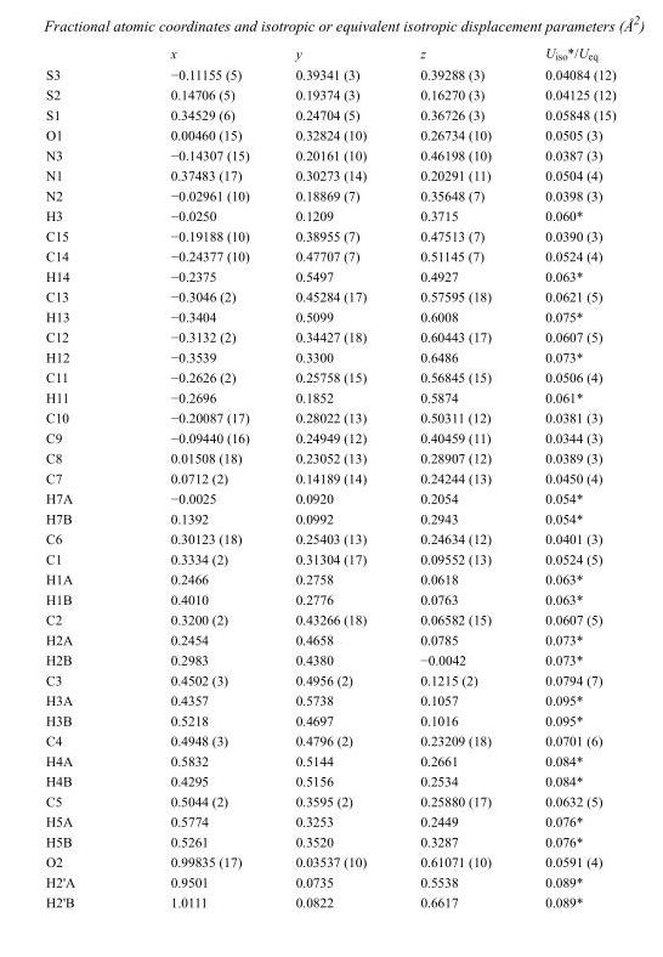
<table><thead><tr><td></td><td>x</td><td>y</td><td>z</td><td>U<sub>iso</sub>*/U<sub>eq</sub></td></tr></thead><tbody><tr><td>S3</td><td>−0.11155 (5)</td><td>0.39341 (3)</td><td>0.39288 (3)</td><td>0.04084 (12)</td></tr><tr><td>S2</td><td>0.14706 (5)</td><td>0.19374 (3)</td><td>0.16270 (3)</td><td>0.04125 (12)</td></tr><tr><td>S1</td><td>0.34529 (6)</td><td>0.24704 (5)</td><td>0.36726 (3)</td><td>0.05848 (15)</td></tr><tr><td>O1</td><td>0.00460 (15)</td><td>0.32824 (10)</td><td>0.26734 (10)</td><td>0.0505 (3)</td></tr><tr><td>N3</td><td>−0.14307 (15)</td><td>0.20161 (10)</td><td>0.46198 (10)</td><td>0.0387 (3)</td></tr><tr><td>N1</td><td>0.37483 (17)</td><td>0.30273 (14)</td><td>0.20291 (11)</td><td>0.0504 (4)</td></tr><tr><td>N2</td><td>−0.02961 (10)</td><td>0.18869 (7)</td><td>0.35648 (7)</td><td>0.0398 (3)</td></tr><tr><td>H3</td><td>−0.0250</td><td>0.1209</td><td>0.3715</td><td>0.060*</td></tr><tr><td>C15</td><td>−0.19188 (10)</td><td>0.38955 (7)</td><td>0.47513 (7)</td><td>0.0390 (3)</td></tr><tr><td>C14</td><td>−0.24377 (10)</td><td>0.47707 (7)</td><td>0.51145 (7)</td><td>0.0524 (4)</td></tr><tr><td>H14</td><td>−0.2375</td><td>0.5497</td><td>0.4927</td><td>0.063*</td></tr><tr><td>C13</td><td>−0.3046 (2)</td><td>0.45284 (17)</td><td>0.57595 (18)</td><td>0.0621 (5)</td></tr><tr><td>H13</td><td>−0.3404</td><td>0.5099</td><td>0.6008</td><td>0.075*</td></tr><tr><td>C12</td><td>−0.3132 (2)</td><td>0.34427 (18)</td><td>0.60443 (17)</td><td>0.0607 (5)</td></tr><tr><td>H12</td><td>−0.3539</td><td>0.3300</td><td>0.6486</td><td>0.073*</td></tr><tr><td>C11</td><td>−0.2626 (2)</td><td>0.25758 (15)</td><td>0.56845 (15)</td><td>0.0506 (4)</td></tr><tr><td>H11</td><td>−0.2696</td><td>0.1852</td><td>0.5874</td><td>0.061*</td></tr><tr><td>C10</td><td>−0.20087 (17)</td><td>0.28022 (13)</td><td>0.50311 (12)</td><td>0.0381 (3)</td></tr><tr><td>C9</td><td>−0.09440 (16)</td><td>0.24949 (12)</td><td>0.40459 (11)</td><td>0.0344 (3)</td></tr><tr><td>C8</td><td>0.01508 (18)</td><td>0.23052 (13)</td><td>0.28907 (12)</td><td>0.0389 (3)</td></tr><tr><td>C7</td><td>0.0712 (2)</td><td>0.14189 (14)</td><td>0.24244 (13)</td><td>0.0450 (4)</td></tr><tr><td>H7A</td><td>−0.0025</td><td>0.0920</td><td>0.2054</td><td>0.054*</td></tr><tr><td>H7B</td><td>0.1392</td><td>0.0992</td><td>0.2943</td><td>0.054*</td></tr><tr><td>C6</td><td>0.30123 (18)</td><td>0.25403 (13)</td><td>0.24634 (12)</td><td>0.0401 (3)</td></tr><tr><td>C1</td><td>0.3334 (2)</td><td>0.31304 (17)</td><td>0.09552 (13)</td><td>0.0524 (5)</td></tr><tr><td>H1A</td><td>0.2466</td><td>0.2758</td><td>0.0618</td><td>0.063*</td></tr><tr><td>H1B</td><td>0.4010</td><td>0.2776</td><td>0.0763</td><td>0.063*</td></tr><tr><td>C2</td><td>0.3200 (2)</td><td>0.43266 (18)</td><td>0.06582 (15)</td><td>0.0607 (5)</td></tr><tr><td>H2A</td><td>0.2454</td><td>0.4658</td><td>0.0785</td><td>0.073*</td></tr><tr><td>H2B</td><td>0.2983</td><td>0.4380</td><td>−0.0042</td><td>0.073*</td></tr><tr><td>C3</td><td>0.4502 (3)</td><td>0.4956 (2)</td><td>0.1215 (2)</td><td>0.0794 (7)</td></tr><tr><td>H3A</td><td>0.4357</td><td>0.5738</td><td>0.1057</td><td>0.095*</td></tr><tr><td>H3B</td><td>0.5218</td><td>0.4697</td><td>0.1016</td><td>0.095*</td></tr><tr><td>C4</td><td>0.4948 (3)</td><td>0.4796 (2)</td><td>0.23209 (18)</td><td>0.0701 (6)</td></tr><tr><td>H4A</td><td>0.5832</td><td>0.5144</td><td>0.2661</td><td>0.084*</td></tr><tr><td>H4B</td><td>0.4295</td><td>0.5156</td><td>0.2534</td><td>0.084*</td></tr><tr><td>C5</td><td>0.5044 (2)</td><td>0.3595 (2)</td><td>0.25880 (17)</td><td>0.0632 (5)</td></tr><tr><td>H5A</td><td>0.5774</td><td>0.3253</td><td>0.2449</td><td>0.076*</td></tr><tr><td>H5B</td><td>0.5261</td><td>0.3520</td><td>0.3287</td><td>0.076*</td></tr><tr><td>O2</td><td>0.99835 (17)</td><td>0.03537 (10)</td><td>0.61071 (10)</td><td>0.0591 (4)</td></tr><tr><td>H2&#x27;A</td><td>0.9501</td><td>0.0735</td><td>0.5538</td><td>0.089*</td></tr><tr><td>H2&#x27;B</td><td>1.0111</td><td>0.0822</td><td>0.6617</td><td>0.089*</td></tr></tbody></table>